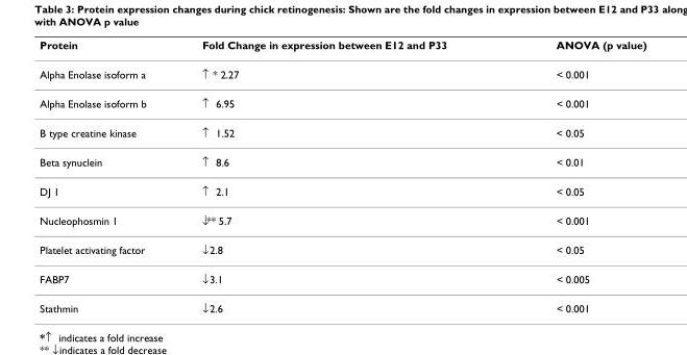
<table><thead><tr><td>Protein</td><td>Fold Change in expression between E12 and P33</td><td>ANOVA (p value)</td></tr></thead><tbody><tr><td>Alpha Enolase isoform a</td><td>↑ * 2.27</td><td>&lt; 0.001</td></tr><tr><td>Alpha Enolase isoform b</td><td>↑ 6.95</td><td>&lt; 0.001</td></tr><tr><td>B type creatine kinase</td><td>↑ 1.52</td><td>&lt; 0.05</td></tr><tr><td>Beta synuclein</td><td>↑ 8.6</td><td>&lt; 0.01</td></tr><tr><td>DJ 1</td><td>↑ 2.1</td><td>&lt; 0.05</td></tr><tr><td>Nucleophosmin 1</td><td>↓** 5.7</td><td>&lt; 0.001</td></tr><tr><td>Platelet activating factor</td><td>↓ 2.8</td><td>&lt; 0.05</td></tr><tr><td>FABP7</td><td>↓ 3.1</td><td>&lt; 0.005</td></tr><tr><td>Stathmin</td><td>↓ 2.6</td><td>&lt; 0.001</td></tr></tbody></table>